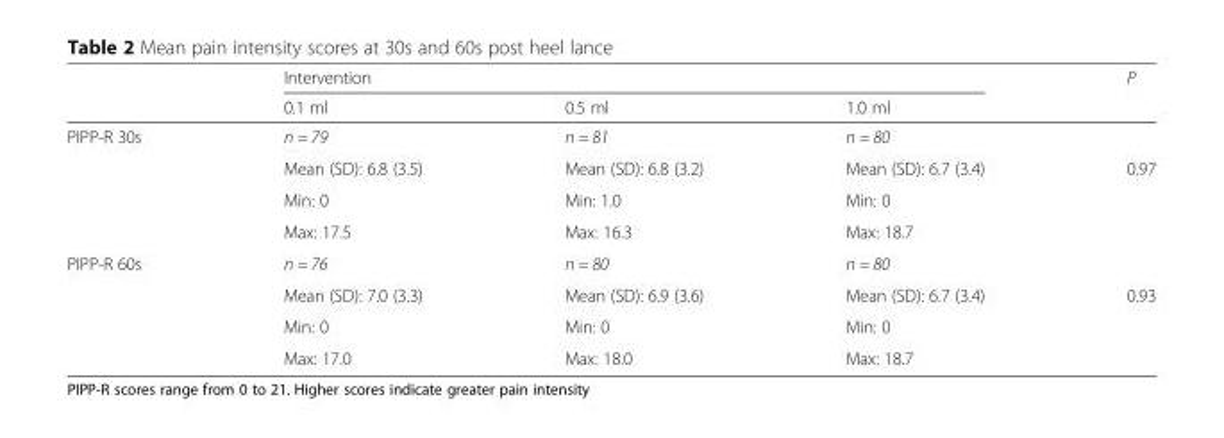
<table><thead><tr><td rowspan="2"></td><td colspan="3">Intervention</td><td rowspan="2">P</td></tr><tr><td>0.1 ml</td><td>0.5 ml</td><td>1.0 ml</td></tr></thead><tbody><tr><td rowspan="4">PIPP-R 30s</td><td>n = 79</td><td>n = 81</td><td>n = 80</td><td></td></tr><tr><td>Mean (SD): 6.8 (3.5)</td><td>Mean (SD): 6.8 (3.2)</td><td>Mean (SD): 6.7 (3.4)</td><td>0.97</td></tr><tr><td>Min: 0</td><td>Min: 1.0</td><td>Min: 0</td><td></td></tr><tr><td>Max: 17.5</td><td>Max: 16.3</td><td>Max: 18.7</td><td></td></tr><tr><td rowspan="4">PIPP-R 60s</td><td>n = 76</td><td>n = 80</td><td>n = 80</td><td></td></tr><tr><td>Mean (SD): 7.0 (3.3)</td><td>Mean (SD): 6.9 (3.6)</td><td>Mean (SD): 6.7 (3.4)</td><td>0.93</td></tr><tr><td>Min: 0</td><td>Min: 0</td><td>Min: 0</td><td></td></tr><tr><td>Max: 17.0</td><td>Max: 18.0</td><td>Max: 18.7</td><td></td></tr></tbody></table>